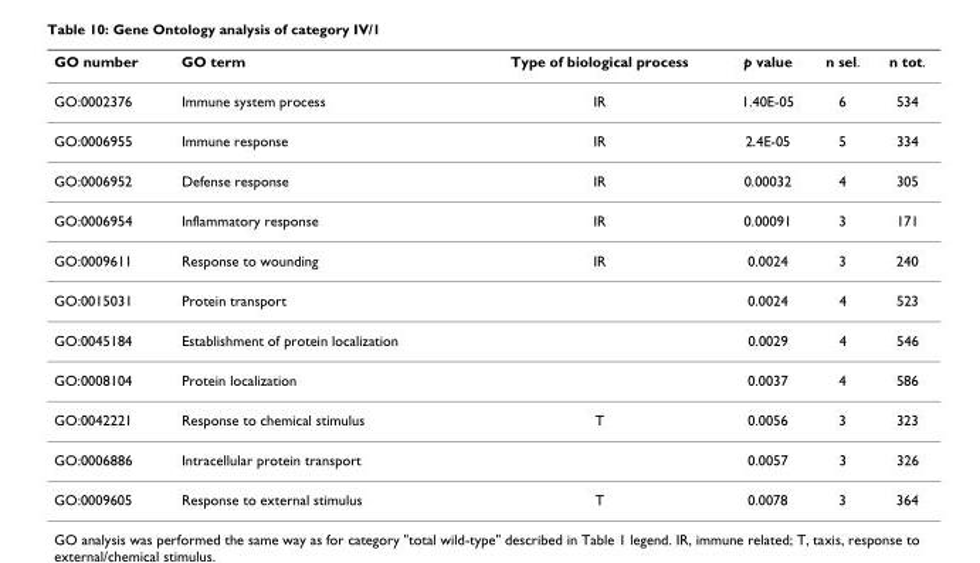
<table><thead><tr><td>GO number</td><td>GO term</td><td>Type of biological process</td><td>p value</td><td>n sel.</td><td>n tot.</td></tr></thead><tbody><tr><td>GO:0002376</td><td>Immune system process</td><td>IR</td><td>1.40E-05</td><td>6</td><td>534</td></tr><tr><td>GO:0006955</td><td>Immune response</td><td>IR</td><td>2.4E-05</td><td>5</td><td>334</td></tr><tr><td>GO:0006952</td><td>Defense response</td><td>IR</td><td>0.00032</td><td>4</td><td>305</td></tr><tr><td>GO:0006954</td><td>Inflammatory response</td><td>IR</td><td>0.00091</td><td>3</td><td>171</td></tr><tr><td>GO:0009611</td><td>Response to wounding</td><td>IR</td><td>0.0024</td><td>3</td><td>240</td></tr><tr><td>GO:0015031</td><td>Protein transport</td><td></td><td>0.0024</td><td>4</td><td>523</td></tr><tr><td>GO:0045184</td><td>Establishment of protein localization</td><td></td><td>0.0029</td><td>4</td><td>546</td></tr><tr><td>GO:0008104</td><td>Protein localization</td><td></td><td>0.0037</td><td>4</td><td>586</td></tr><tr><td>GO:0042221</td><td>Response to chemical stimulus</td><td>T</td><td>0.0056</td><td>3</td><td>323</td></tr><tr><td>GO:0006886</td><td>Intracellular protein transport</td><td></td><td>0.0057</td><td>3</td><td>326</td></tr><tr><td>GO:0009605</td><td>Response to external stimulus</td><td>T</td><td>0.0078</td><td>3</td><td>364</td></tr></tbody></table>